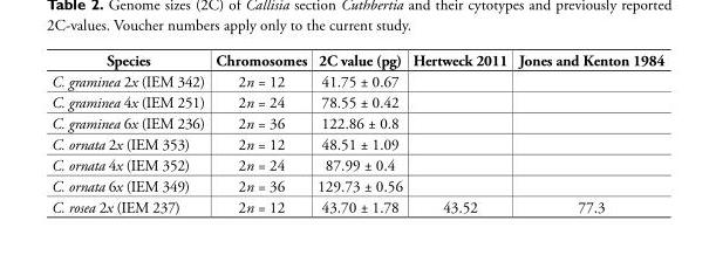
<table><thead><tr><td>Species</td><td>Chromosomes</td><td>2C value (pg)</td><td>Hertweck 2011</td><td>Jones and Kenton 1984</td></tr></thead><tbody><tr><td>C. graminea 2x (IEM 342)</td><td>2n = 12</td><td>41.75 ± 0.67</td><td></td><td></td></tr><tr><td>C. graminea 4x (IEM 251)</td><td>2n = 24</td><td>78.55 ± 0.42</td><td></td><td></td></tr><tr><td>C. graminea 6x (IEM 236)</td><td>2n = 36</td><td>122.86 ± 0.8</td><td></td><td></td></tr><tr><td>C. ornata 2x (IEM 353)</td><td>2n = 12</td><td>48.51 ± 1.09</td><td></td><td></td></tr><tr><td>C. ornata 4x (IEM 352)</td><td>2n = 24</td><td>87.99 ± 0.4</td><td></td><td></td></tr><tr><td>C. ornata 6x (IEM 349)</td><td>2n = 36</td><td>129.73 ± 0.56</td><td></td><td></td></tr><tr><td>C. rosea 2x (IEM 237)</td><td>2n = 12</td><td>43.70 ± 1.78</td><td>43.52</td><td>77.3</td></tr></tbody></table>